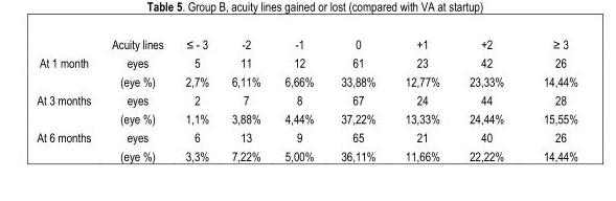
<table><thead><tr><td></td><td>Acuity lines</td><td>≤ - 3</td><td>-2</td><td>-1</td><td>0</td><td>+1</td><td>+2</td><td>≥ 3</td></tr></thead><tbody><tr><td rowspan="2">At 1 month</td><td>eyes</td><td>5</td><td>11</td><td>12</td><td>61</td><td>23</td><td>42</td><td>26</td></tr><tr><td>(eye %)</td><td>2,7%</td><td>6,11%</td><td>6,66%</td><td>33,88%</td><td>12,77%</td><td>23,33%</td><td>14,44%</td></tr><tr><td rowspan="2">At 3 months</td><td>eyes</td><td>2</td><td>7</td><td>8</td><td>67</td><td>24</td><td>44</td><td>28</td></tr><tr><td>(eye %)</td><td>1,1%</td><td>3,88%</td><td>4,44%</td><td>37,22%</td><td>13,33%</td><td>24,44%</td><td>15,55%</td></tr><tr><td rowspan="2">At 6 months</td><td>eyes</td><td>6</td><td>13</td><td>9</td><td>65</td><td>21</td><td>40</td><td>26</td></tr><tr><td>(eye %)</td><td>3,3%</td><td>7,22%</td><td>5,00%</td><td>36,11%</td><td>11,66%</td><td>22,22%</td><td>14,44%</td></tr></tbody></table>